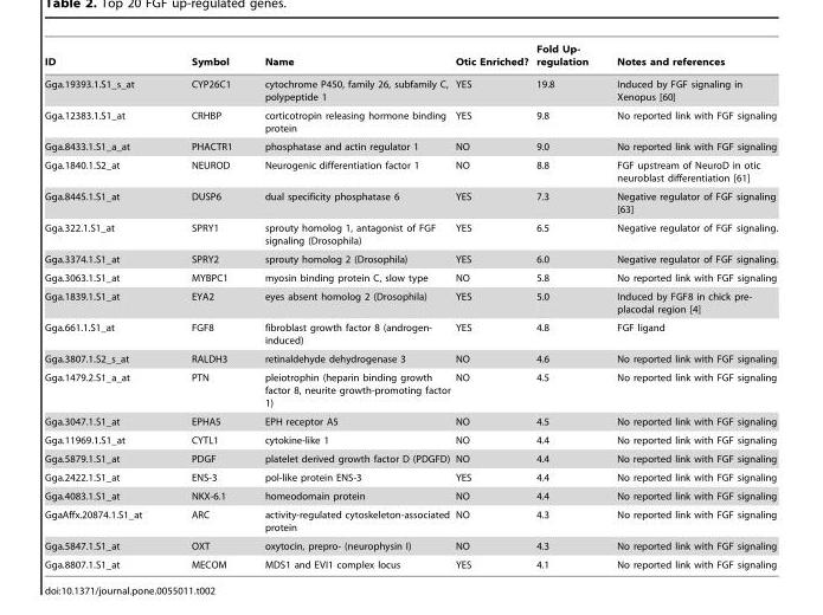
<table><thead><tr><td>ID</td><td>Symbol</td><td>Name</td><td>Otic Enriched?</td><td>Fold Up- regulation</td><td>Notes and references</td></tr></thead><tbody><tr><td>Gga.19393.1.S1_s_at</td><td>CYP26C1</td><td>cytochrome P450, family 26, subfamily C, polypeptide 1</td><td>YES</td><td>19.8</td><td>Induced by FGF signaling in Xenopus [60]</td></tr><tr><td>Gga.12383.1.S1_at</td><td>CRHBP</td><td>corticotropin releasing hormone binding protein</td><td>YES</td><td>9.8</td><td>No reported link with FGF signaling</td></tr><tr><td>Gga.8433.1.S1_a_at</td><td>PHACTR1</td><td>phosphatase and actin regulator 1</td><td>NO</td><td>9.0</td><td>No reported link with FGF signaling</td></tr><tr><td>Gga.1840.1.S2_at</td><td>NEUROD</td><td>Neurogenic differentiation factor 1</td><td>NO</td><td>8.8</td><td>FGF upstream of NeuroD in otic neuroblast differentiation [61]</td></tr><tr><td>Gga.8445.1.S1_at</td><td>DUSP6</td><td>dual specificity phosphatase 6</td><td>YES</td><td>7.3</td><td>Negative regulator of FGF signaling [63]</td></tr><tr><td>Gga.322.1.S1_at</td><td>SPRY1</td><td>sprouty homolog 1, antagonist of FGF signaling (Drosophila)</td><td>YES</td><td>6.5</td><td>Negative regulator of FGF signaling.</td></tr><tr><td>Gga.3374.1.S1_at</td><td>SPRY2</td><td>sprouty homolog 2 (Drosophila)</td><td>YES</td><td>6.0</td><td>Negative regulator of FGF signaling.</td></tr><tr><td>Gga.3063.1.S1_at</td><td>MYBPC1</td><td>myosin binding protein C, slow type</td><td>NO</td><td>5.8</td><td>No reported link with FGF signaling</td></tr><tr><td>Gga.1839.1.S1_at</td><td>EYA2</td><td>eyes absent homolog 2 (Drosophila)</td><td>YES</td><td>5.0</td><td>Induced by FGF8 in chick pre- placodal region [4]</td></tr><tr><td>Gga.661.1.S1_at</td><td>FGF8</td><td>fibroblast growth factor 8 (androgen- induced)</td><td>YES</td><td>4.8</td><td>FGF ligand</td></tr><tr><td>Gga.3807.1.S2_s_at</td><td>RALDH3</td><td>retinaldehyde dehydrogenase 3</td><td>NO</td><td>4.6</td><td>No reported link with FGF signaling</td></tr><tr><td>Gga.1479.2.S1_a_at</td><td>PTN</td><td>pleiotrophin (heparin binding growth factor 8, neurite growth-promoting factor 1)</td><td>NO</td><td>4.5</td><td>No reported link with FGF signaling</td></tr><tr><td>Gga.3047.1.S1_at</td><td>EPHA5</td><td>EPH receptor A5</td><td>NO</td><td>4.5</td><td>No reported link with FGF signaling</td></tr><tr><td>Gga.11969.1.S1_at</td><td>CYTL1</td><td>cytokine-like 1</td><td>NO</td><td>4.4</td><td>No reported link with FGF signaling</td></tr><tr><td>Gga.5879.1.S1_at</td><td>PDGF</td><td>platelet derived growth factor D (PDGFD)</td><td>NO</td><td>4.4</td><td>No reported link with FGF signaling</td></tr><tr><td>Gga.2422.1.S1_at</td><td>ENS-3</td><td>pol-like protein ENS-3</td><td>YES</td><td>4.4</td><td>No reported link with FGF signaling</td></tr><tr><td>Gga.4083.1.S1_at</td><td>NKX-6.1</td><td>homeodomain protein</td><td>NO</td><td>4.4</td><td>No reported link with FGF signaling</td></tr><tr><td>GgaAffx.20874.1.S1_at</td><td>ARC</td><td>activity-regulated cytoskeleton-associated protein</td><td>NO</td><td>4.3</td><td>No reported link with FGF signaling</td></tr><tr><td>Gga.5847.1.S1_at</td><td>OXT</td><td>oxytocin, prepro- (neurophysin I)</td><td>NO</td><td>4.3</td><td>No reported link with FGF signaling</td></tr><tr><td>Gga.8807.1.S1_at</td><td>MECOM</td><td>MDS1 and EVI1 complex locus</td><td>YES</td><td>4.1</td><td>No reported link with FGF signaling</td></tr></tbody></table>